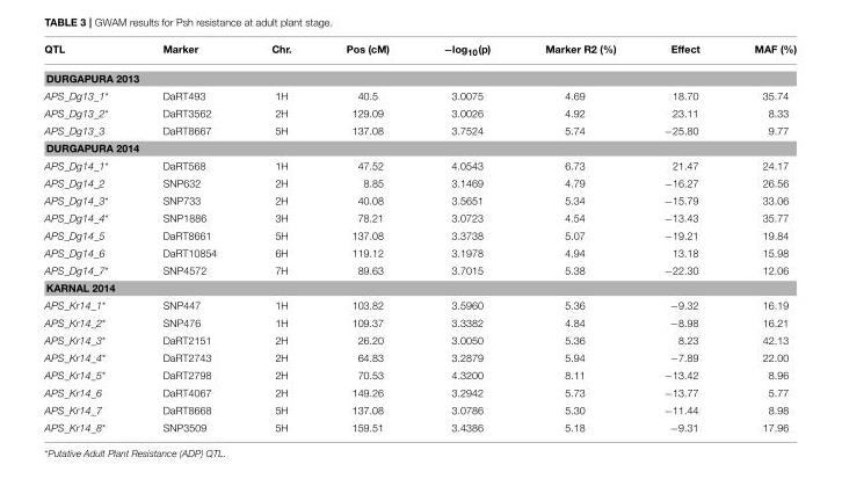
<table><thead><tr><td>QTL</td><td>Marker</td><td>Chr.</td><td>Pos (cM)</td><td>−log<sub>10</sub>(p)</td><td>Marker R2 (%)</td><td>Effect</td><td>MAF (%)</td></tr></thead><tbody><tr><td colspan="8">DURGAPURA 2013</td></tr><tr><td>APS_Dg13_1*</td><td>DaRT493</td><td>1H</td><td>40.5</td><td>3.0075</td><td>4.69</td><td>18.70</td><td>35.74</td></tr><tr><td>APS_Dg13_2*</td><td>DaRT3562</td><td>2H</td><td>129.09</td><td>3.0026</td><td>4.92</td><td>23.11</td><td>8.33</td></tr><tr><td>APS_Dg13_3</td><td>DaRT8667</td><td>5H</td><td>137.08</td><td>3.7524</td><td>5.74</td><td>−25.80</td><td>9.77</td></tr><tr><td colspan="8">DURGAPURA 2014</td></tr><tr><td>APS_Dg14_1*</td><td>DaRT568</td><td>1H</td><td>47.52</td><td>4.0543</td><td>6.73</td><td>21.47</td><td>24.17</td></tr><tr><td>APS_Dg14_2</td><td>SNP632</td><td>2H</td><td>8.85</td><td>3.1469</td><td>4.79</td><td>−16.27</td><td>26.56</td></tr><tr><td>APS_Dg14_3*</td><td>SNP733</td><td>2H</td><td>40.08</td><td>3.5651</td><td>5.34</td><td>−15.79</td><td>33.06</td></tr><tr><td>APS_Dg14_4*</td><td>SNP1886</td><td>3H</td><td>78.21</td><td>3.0723</td><td>4.54</td><td>−13.43</td><td>35.77</td></tr><tr><td>APS_Dg14_5</td><td>DaRT8661</td><td>5H</td><td>137.08</td><td>3.3738</td><td>5.07</td><td>−19.21</td><td>19.84</td></tr><tr><td>APS_Dg14_6</td><td>DaRT10854</td><td>6H</td><td>119.12</td><td>3.1978</td><td>4.94</td><td>13.18</td><td>15.98</td></tr><tr><td>APS_Dg14_7*</td><td>SNP4572</td><td>7H</td><td>89.63</td><td>3.7015</td><td>5.38</td><td>−22.30</td><td>12.06</td></tr><tr><td colspan="8">KARNAL 2014</td></tr><tr><td>APS_Kr14_1*</td><td>SNP447</td><td>1H</td><td>103.82</td><td>3.5960</td><td>5.36</td><td>−9.32</td><td>16.19</td></tr><tr><td>APS_Kr14_2*</td><td>SNP476</td><td>1H</td><td>109.37</td><td>3.3382</td><td>4.84</td><td>−8.98</td><td>16.21</td></tr><tr><td>APS_Kr14_3*</td><td>DaRT2151</td><td>2H</td><td>26.20</td><td>3.0050</td><td>5.36</td><td>8.23</td><td>42.13</td></tr><tr><td>APS_Kr14_4*</td><td>DaRT2743</td><td>2H</td><td>64.83</td><td>3.2879</td><td>5.94</td><td>−7.89</td><td>22.00</td></tr><tr><td>APS_Kr14_5*</td><td>DaRT2798</td><td>2H</td><td>70.53</td><td>4.3200</td><td>8.11</td><td>−13.42</td><td>8.96</td></tr><tr><td>APS_Kr14_6</td><td>DaRT4067</td><td>2H</td><td>149.26</td><td>3.2942</td><td>5.73</td><td>−13.77</td><td>5.77</td></tr><tr><td>APS_Kr14_7</td><td>DaRT8668</td><td>5H</td><td>137.08</td><td>3.0786</td><td>5.30</td><td>−11.44</td><td>8.98</td></tr><tr><td>APS_Kr14_8*</td><td>SNP3509</td><td>5H</td><td>159.51</td><td>3.4386</td><td>5.18</td><td>−9.31</td><td>17.96</td></tr></tbody></table>